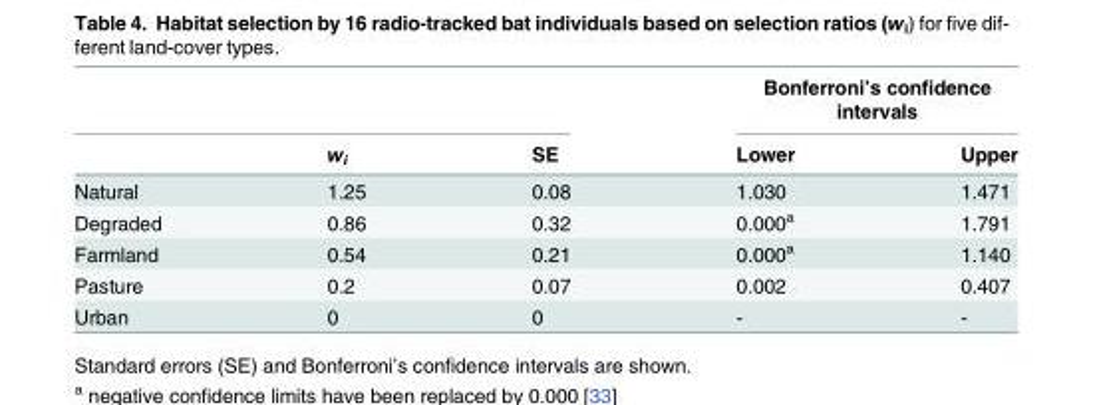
<table><thead><tr><td rowspan="2"></td><td rowspan="2">w<sub>i</sub></td><td rowspan="2">SE</td><td colspan="2">Bonferroni’s confidence intervals</td></tr><tr><td>Lower</td><td>Upper</td></tr></thead><tbody><tr><td>Natural</td><td>1.25</td><td>0.08</td><td>1.030</td><td>1.471</td></tr><tr><td>Degraded</td><td>0.86</td><td>0.32</td><td>0.000<sup>a</sup></td><td>1.791</td></tr><tr><td>Farmland</td><td>0.54</td><td>0.21</td><td>0.000<sup>a</sup></td><td>1.140</td></tr><tr><td>Pasture</td><td>0.2</td><td>0.07</td><td>0.002</td><td>0.407</td></tr><tr><td>Urban</td><td>0</td><td>0</td><td>-</td><td>-</td></tr></tbody></table>